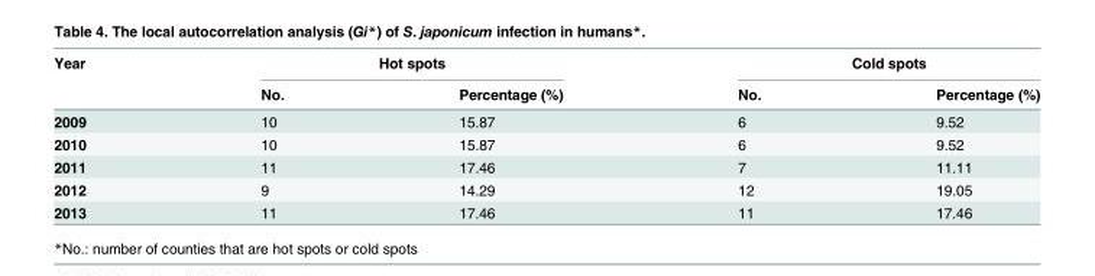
<table><thead><tr><td rowspan="2">Year</td><td colspan="2">Hot spots</td><td colspan="2">Cold spots</td></tr><tr><td>No.</td><td>Percentage (%)</td><td>No.</td><td>Percentage (%)</td></tr></thead><tbody><tr><td>2009</td><td>10</td><td>15.87</td><td>6</td><td>9.52</td></tr><tr><td>2010</td><td>10</td><td>15.87</td><td>6</td><td>9.52</td></tr><tr><td>2011</td><td>11</td><td>17.46</td><td>7</td><td>11.11</td></tr><tr><td>2012</td><td>9</td><td>14.29</td><td>12</td><td>19.05</td></tr><tr><td>2013</td><td>11</td><td>17.46</td><td>11</td><td>17.46</td></tr></tbody></table>